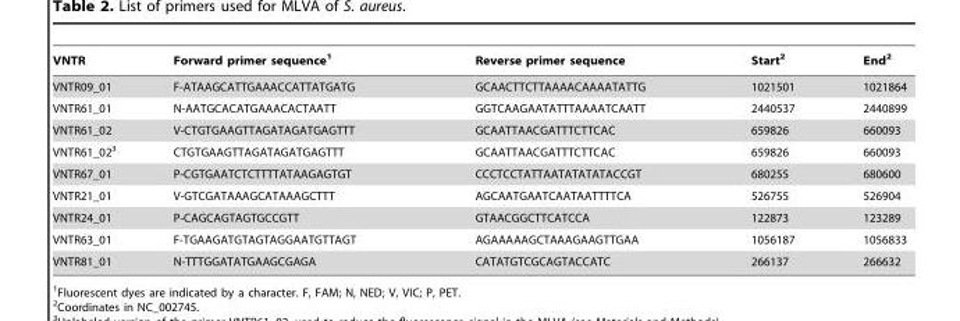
<table><thead><tr><td>VNTR</td><td>Forward primer sequence<sup>1</sup></td><td>Reverse primer sequence</td><td>Start<sup>2</sup></td><td>End<sup>2</sup></td></tr></thead><tbody><tr><td>VNTR09_01</td><td>F-ATAAGCATTGAAACCATTATGATG</td><td>GCAACTTCTTAAAACAAAATATTG</td><td>1021501</td><td>1021864</td></tr><tr><td>VNTR61_01</td><td>N-AATGCACATGAAACACTAATT</td><td>GGTCAAGAATATTTAAAATCAATT</td><td>2440537</td><td>2440899</td></tr><tr><td>VNTR61_02</td><td>V-CTGTGAAGTTAGATAGATGAGTTT</td><td>GCAATTAACGATTTCTTCAC</td><td>659826</td><td>660093</td></tr><tr><td>VNTR61_02<sup>3</sup></td><td>CTGTGAAGTTAGATAGATGAGTTT</td><td>GCAATTAACGATTTCTTCAC</td><td>659826</td><td>660093</td></tr><tr><td>VNTR67_01</td><td>P-CGTGAATCTCTTTTATAAGAGTGT</td><td>CCCTCCTATTAATATATATACCGT</td><td>680255</td><td>680600</td></tr><tr><td>VNTR21_01</td><td>V-GTCGATAAAGCATAAAGCTTT</td><td>AGCAATGAATCAATAATTTTCA</td><td>526755</td><td>526904</td></tr><tr><td>VNTR24_01</td><td>P-CAGCAGTAGTGCCGTT</td><td>GTAACGGCTTCATCCA</td><td>122873</td><td>123289</td></tr><tr><td>VNTR63_01</td><td>F-TGAAGATGTAGTAGGAATGTTAGT</td><td>AGAAAAAGCTAAAGAAGTTGAA</td><td>1056187</td><td>1056833</td></tr><tr><td>VNTR81_01</td><td>N-TTTGGATATGAAGCGAGA</td><td>CATATGTCGCAGTACCATC</td><td>266137</td><td>266632</td></tr></tbody></table>